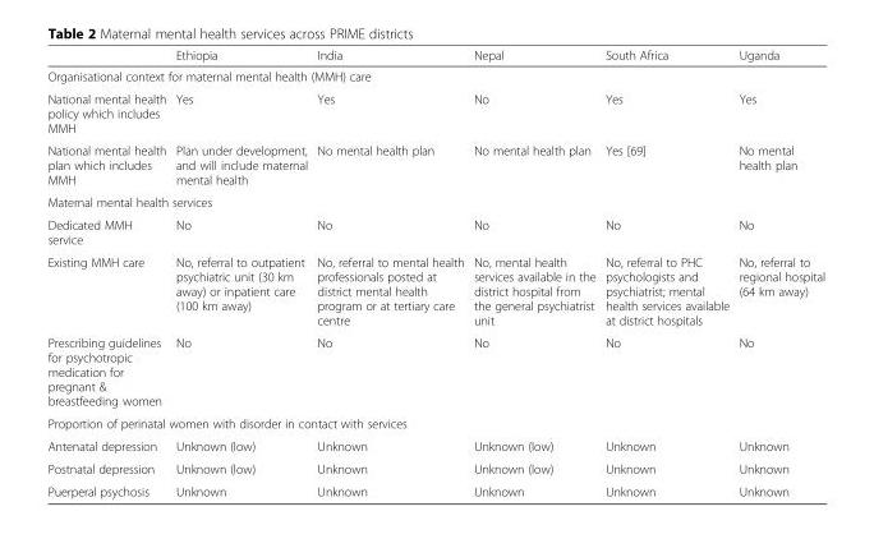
<table><thead><tr><td></td><td>Ethiopia</td><td>India</td><td>Nepal</td><td>South Africa</td><td>Uganda</td></tr></thead><tbody><tr><td colspan="6">Organisational context for maternal mental health (MMH) care</td></tr><tr><td>National mental health policy which includes MMH</td><td>Yes</td><td>Yes</td><td>No</td><td>Yes</td><td>Yes</td></tr><tr><td>National mental health plan which includes MMH</td><td>Plan under development, and will include maternal mental health</td><td>No mental health plan</td><td>No mental health plan</td><td>Yes [69]</td><td>No mental health plan</td></tr><tr><td colspan="6">Maternal mental health services</td></tr><tr><td>Dedicated MMH service</td><td>No</td><td>No</td><td>No</td><td>No</td><td>No</td></tr><tr><td>Existing MMH care</td><td>No, referral to outpatient psychiatric unit (30 km away) or inpatient care (100 km away)</td><td>No, referral to mental health professionals posted at district mental health program or at tertiary care centre</td><td>No, mental health services available in the district hospital from the general psychiatrist unit</td><td>No, referral to PHC psychologists and psychiatrist; mental health services available at district hospitals</td><td>No, referral to regional hospital (64 km away)</td></tr><tr><td>Prescribing guidelines for psychotropic medication for pregnant &amp; breastfeeding women</td><td>No</td><td>No</td><td>No</td><td>No</td><td>No</td></tr><tr><td colspan="6">Proportion of perinatal women with disorder in contact with services</td></tr><tr><td>Antenatal depression</td><td>Unknown (low)</td><td>Unknown</td><td>Unknown (low)</td><td>Unknown</td><td>Unknown</td></tr><tr><td>Postnatal depression</td><td>Unknown (low)</td><td>Unknown</td><td>Unknown (low)</td><td>Unknown</td><td>Unknown</td></tr><tr><td>Puerperal psychosis</td><td>Unknown</td><td>Unknown</td><td>Unknown</td><td>Unknown</td><td>Unknown</td></tr></tbody></table>